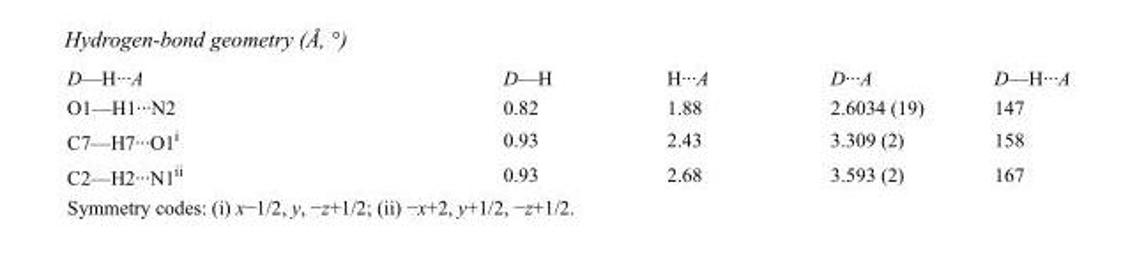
<table><tbody><tr><td>D—H···A</td><td>D—H</td><td>H···A</td><td>D···A</td><td>D—H···A</td></tr><tr><td>O1—H1···N2</td><td>0.82</td><td>1.88</td><td>2.6034 (19)</td><td>147</td></tr><tr><td>C7—H7···O1<sup>i</sup></td><td>0.93</td><td>2.43</td><td>3.309 (2)</td><td>158</td></tr><tr><td>C2—H2···N1<sup>ii</sup></td><td>0.93</td><td>2.68</td><td>3.593 (2)</td><td>167</td></tr></tbody></table>